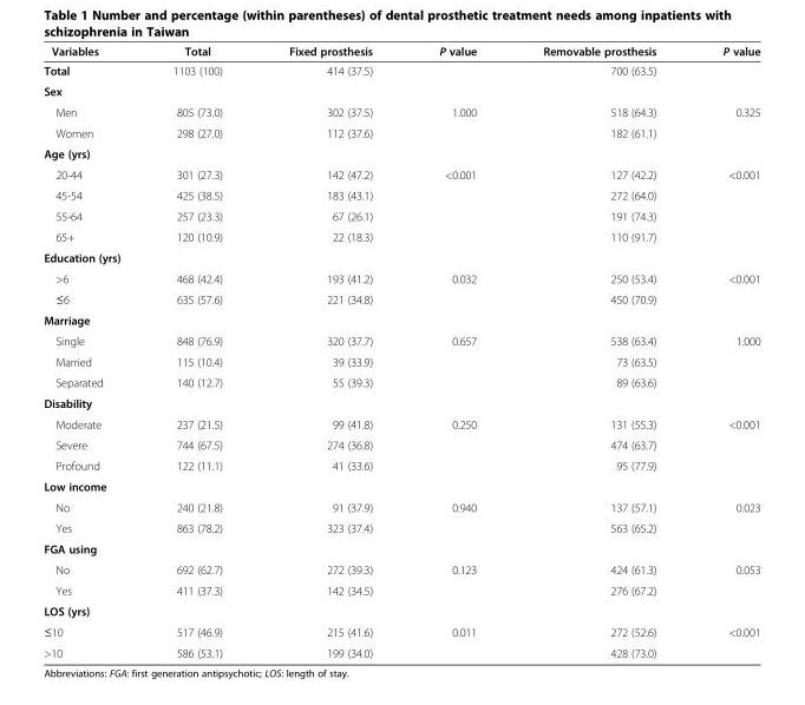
<table><thead><tr><td>Variables</td><td>Total</td><td>Fixed prosthesis</td><td>P value</td><td>Removable prosthesis</td><td>P value</td></tr></thead><tbody><tr><td>Total</td><td>1103 (100)</td><td>414 (37.5)</td><td></td><td>700 (63.5)</td><td></td></tr><tr><td colspan="6">Sex</td></tr><tr><td>Men</td><td>805 (73.0)</td><td>302 (37.5)</td><td>1.000</td><td>518 (64.3)</td><td>0.325</td></tr><tr><td>Women</td><td>298 (27.0)</td><td>112 (37.6)</td><td></td><td>182 (61.1)</td><td></td></tr><tr><td colspan="6">Age (yrs)</td></tr><tr><td>20-44</td><td>301 (27.3)</td><td>142 (47.2)</td><td>&lt;0.001</td><td>127 (42.2)</td><td>&lt;0.001</td></tr><tr><td>45-54</td><td>425 (38.5)</td><td>183 (43.1)</td><td></td><td>272 (64.0)</td><td></td></tr><tr><td>55-64</td><td>257 (23.3)</td><td>67 (26.1)</td><td></td><td>191 (74.3)</td><td></td></tr><tr><td>65+</td><td>120 (10.9)</td><td>22 (18.3)</td><td></td><td>110 (91.7)</td><td></td></tr><tr><td colspan="6">Education (yrs)</td></tr><tr><td>&gt;6</td><td>468 (42.4)</td><td>193 (41.2)</td><td>0.032</td><td>250 (53.4)</td><td>&lt;0.001</td></tr><tr><td>≤6</td><td>635 (57.6)</td><td>221 (34.8)</td><td></td><td>450 (70.9)</td><td></td></tr><tr><td colspan="6">Marriage</td></tr><tr><td>Single</td><td>848 (76.9)</td><td>320 (37.7)</td><td>0.657</td><td>538 (63.4)</td><td>1.000</td></tr><tr><td>Married</td><td>115 (10.4)</td><td>39 (33.9)</td><td></td><td>73 (63.5)</td><td></td></tr><tr><td>Separated</td><td>140 (12.7)</td><td>55 (39.3)</td><td></td><td>89 (63.6)</td><td></td></tr><tr><td colspan="6">Disability</td></tr><tr><td>Moderate</td><td>237 (21.5)</td><td>99 (41.8)</td><td>0.250</td><td>131 (55.3)</td><td>&lt;0.001</td></tr><tr><td>Severe</td><td>744 (67.5)</td><td>274 (36.8)</td><td></td><td>474 (63.7)</td><td></td></tr><tr><td>Profound</td><td>122 (11.1)</td><td>41 (33.6)</td><td></td><td>95 (77.9)</td><td></td></tr><tr><td colspan="6">Low income</td></tr><tr><td>No</td><td>240 (21.8)</td><td>91 (37.9)</td><td>0.940</td><td>137 (57.1)</td><td>0.023</td></tr><tr><td>Yes</td><td>863 (78.2)</td><td>323 (37.4)</td><td></td><td>563 (65.2)</td><td></td></tr><tr><td colspan="6">FGA using</td></tr><tr><td>No</td><td>692 (62.7)</td><td>272 (39.3)</td><td>0.123</td><td>424 (61.3)</td><td>0.053</td></tr><tr><td>Yes</td><td>411 (37.3)</td><td>142 (34.5)</td><td></td><td>276 (67.2)</td><td></td></tr><tr><td colspan="6">LOS (yrs)</td></tr><tr><td>≤10</td><td>517 (46.9)</td><td>215 (41.6)</td><td>0.011</td><td>272 (52.6)</td><td>&lt;0.001</td></tr><tr><td>&gt;10</td><td>586 (53.1)</td><td>199 (34.0)</td><td></td><td>428 (73.0)</td><td></td></tr></tbody></table>